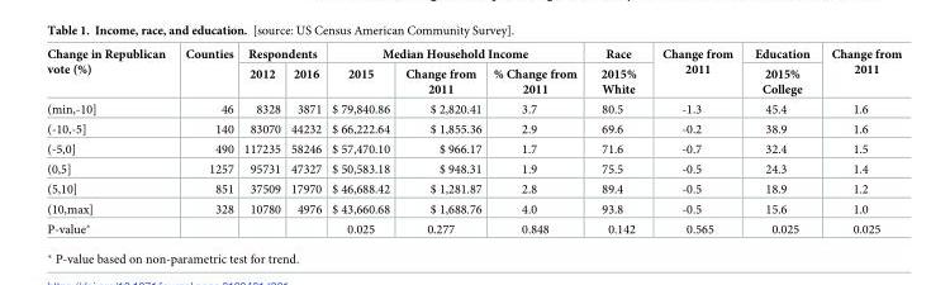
<table><thead><tr><td rowspan="2">Change in Republican vote (%)</td><td rowspan="2">Counties</td><td colspan="2">Respondents</td><td colspan="3">Median Household Income</td><td rowspan="2">Race 2015% White</td><td rowspan="2">Change from 2011</td><td rowspan="2">Education 2015% College</td><td rowspan="2">Change from 2011</td></tr><tr><td>2012</td><td>2016</td><td>2015</td><td>Change from 2011</td><td>% Change from 2011</td></tr></thead><tbody><tr><td>(min,-10]</td><td>46</td><td>8328</td><td>3871</td><td>$ 79,840.86</td><td>$ 2,820.41</td><td>3.7</td><td>80.5</td><td>-1.3</td><td>45.4</td><td>1.6</td></tr><tr><td>(-10,-5]</td><td>140</td><td>83070</td><td>44232</td><td>$ 66,222.64</td><td>$ 1,855.36</td><td>2.9</td><td>69.6</td><td>-0.2</td><td>38.9</td><td>1.6</td></tr><tr><td>(-5,0]</td><td>490</td><td>117235</td><td>58246</td><td>$ 57,470.10</td><td>$ 966.17</td><td>1.7</td><td>71.6</td><td>-0.7</td><td>32.4</td><td>1.5</td></tr><tr><td>(0,5]</td><td>1257</td><td>95731</td><td>47327</td><td>$ 50,583.18</td><td>$ 948.31</td><td>1.9</td><td>75.5</td><td>-0.5</td><td>24.3</td><td>1.4</td></tr><tr><td>(5,10]</td><td>851</td><td>37509</td><td>17970</td><td>$ 46,688.42</td><td>$ 1,281.87</td><td>2.8</td><td>89.4</td><td>-0.5</td><td>18.9</td><td>1.2</td></tr><tr><td>(10,max]</td><td>328</td><td>10780</td><td>4976</td><td>$ 43,660.68</td><td>$ 1,688.76</td><td>4.0</td><td>93.8</td><td>-0.5</td><td>15.6</td><td>1.0</td></tr><tr><td>P-value*</td><td></td><td></td><td></td><td>0.025</td><td>0.277</td><td>0.848</td><td>0.142</td><td>0.565</td><td>0.025</td><td>0.025</td></tr></tbody></table>